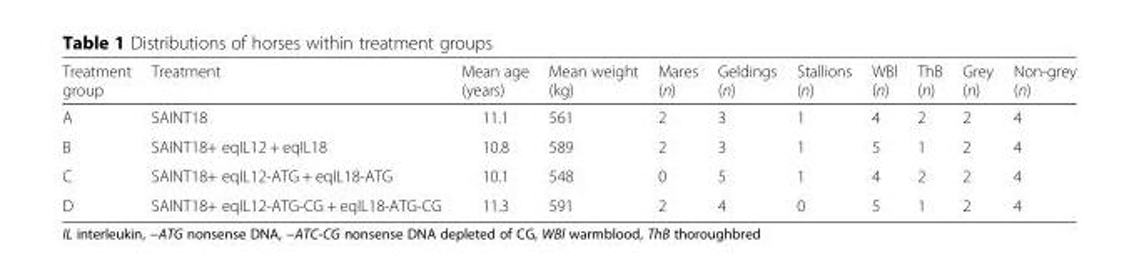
<table><thead><tr><td>Treatment group</td><td>Treatment</td><td>Mean age (years)</td><td>Mean weight (kg)</td><td>Mares (n)</td><td>Geldings (n)</td><td>Stallions (n)</td><td>WBl (n)</td><td>ThB (n)</td><td>Grey (n)</td><td>Non-grey (n)</td></tr></thead><tbody><tr><td>A</td><td>SAINT18</td><td>11.1</td><td>561</td><td>2</td><td>3</td><td>1</td><td>4</td><td>2</td><td>2</td><td>4</td></tr><tr><td>B</td><td>SAINT18+ eqIL12 + eqIL18</td><td>10.8</td><td>589</td><td>2</td><td>3</td><td>1</td><td>5</td><td>1</td><td>2</td><td>4</td></tr><tr><td>C</td><td>SAINT18+ eqIL12-ATG + eqIL18-ATG</td><td>10.1</td><td>548</td><td>0</td><td>5</td><td>1</td><td>4</td><td>2</td><td>2</td><td>4</td></tr><tr><td>D</td><td>SAINT18+ eqIL12-ATG-CG + eqIL18-ATG-CG</td><td>11.3</td><td>591</td><td>2</td><td>4</td><td>0</td><td>5</td><td>1</td><td>2</td><td>4</td></tr></tbody></table>